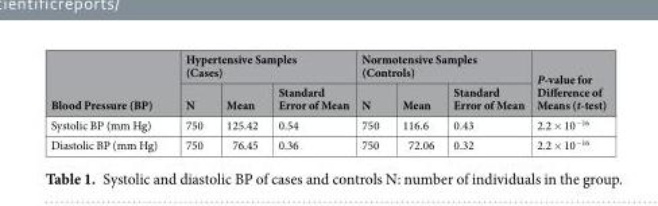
<table><thead><tr><td rowspan="2">Blood Pressure (BP)</td><td colspan="3">Hypertensive Samples (Cases)</td><td colspan="3">Normotensive Samples (Controls)</td><td rowspan="2">P-value for Difference of Means (t-test)</td></tr><tr><td>N</td><td>Mean</td><td>Standard Error of Mean</td><td>N</td><td>Mean</td><td>Standard Error of Mean</td></tr></thead><tbody><tr><td>Systolic BP (mm Hg)</td><td>750</td><td>125.42</td><td>0.54</td><td>750</td><td>116.6</td><td>0.43</td><td>2.2 × 10<sup>−16</sup></td></tr><tr><td>Diastolic BP (mm Hg)</td><td>750</td><td>76.45</td><td>0.36</td><td>750</td><td>72.06</td><td>0.32</td><td>2.2 × 10<sup>−16</sup></td></tr></tbody></table>